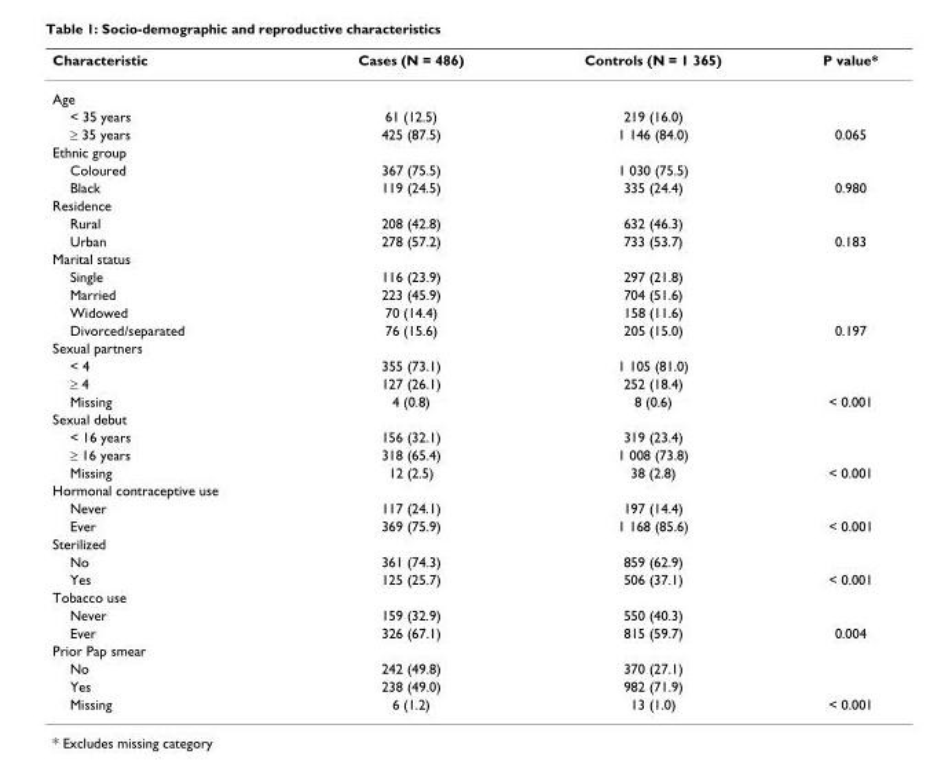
<table><thead><tr><td>Characteristic</td><td>Cases (N = 486)</td><td>Controls (N = 1 365)</td><td>P value*</td></tr></thead><tbody><tr><td colspan="4">Age</td></tr><tr><td>&lt; 35 years</td><td>61 (12.5)</td><td>219 (16.0)</td><td></td></tr><tr><td>≥ 35 years</td><td>425 (87.5)</td><td>1 146 (84.0)</td><td>0.065</td></tr><tr><td colspan="4">Ethnic group</td></tr><tr><td>Coloured</td><td>367 (75.5)</td><td>1 030 (75.5)</td><td></td></tr><tr><td>Black</td><td>119 (24.5)</td><td>335 (24.4)</td><td>0.980</td></tr><tr><td colspan="4">Residence</td></tr><tr><td>Rural</td><td>208 (42.8)</td><td>632 (46.3)</td><td></td></tr><tr><td>Urban</td><td>278 (57.2)</td><td>733 (53.7)</td><td>0.183</td></tr><tr><td colspan="4">Marital status</td></tr><tr><td>Single</td><td>116 (23.9)</td><td>297 (21.8)</td><td></td></tr><tr><td>Married</td><td>223 (45.9)</td><td>704 (51.6)</td><td></td></tr><tr><td>Widowed</td><td>70 (14.4)</td><td>158 (11.6)</td><td></td></tr><tr><td>Divorced/separated</td><td>76 (15.6)</td><td>205 (15.0)</td><td>0.197</td></tr><tr><td colspan="4">Sexual partners</td></tr><tr><td>&lt; 4</td><td>355 (73.1)</td><td>1 105 (81.0)</td><td></td></tr><tr><td>≥ 4</td><td>127 (26.1)</td><td>252 (18.4)</td><td></td></tr><tr><td>Missing</td><td>4 (0.8)</td><td>8 (0.6)</td><td>&lt; 0.001</td></tr><tr><td colspan="4">Sexual debut</td></tr><tr><td>&lt; 16 years</td><td>156 (32.1)</td><td>319 (23.4)</td><td></td></tr><tr><td>≥ 16 years</td><td>318 (65.4)</td><td>1 008 (73.8)</td><td></td></tr><tr><td>Missing</td><td>12 (2.5)</td><td>38 (2.8)</td><td>&lt; 0.001</td></tr><tr><td colspan="4">Hormonal contraceptive use</td></tr><tr><td>Never</td><td>117 (24.1)</td><td>197 (14.4)</td><td></td></tr><tr><td>Ever</td><td>369 (75.9)</td><td>1 168 (85.6)</td><td>&lt; 0.001</td></tr><tr><td colspan="4">Sterilized</td></tr><tr><td>No</td><td>361 (74.3)</td><td>859 (62.9)</td><td></td></tr><tr><td>Yes</td><td>125 (25.7)</td><td>506 (37.1)</td><td>&lt; 0.001</td></tr><tr><td colspan="4">Tobacco use</td></tr><tr><td>Never</td><td>159 (32.9)</td><td>550 (40.3)</td><td></td></tr><tr><td>Ever</td><td>326 (67.1)</td><td>815 (59.7)</td><td>0.004</td></tr><tr><td colspan="4">Prior Pap smear</td></tr><tr><td>No</td><td>242 (49.8)</td><td>370 (27.1)</td><td></td></tr><tr><td>Yes</td><td>238 (49.0)</td><td>982 (71.9)</td><td></td></tr><tr><td>Missing</td><td>6 (1.2)</td><td>13 (1.0)</td><td>&lt; 0.001</td></tr></tbody></table>